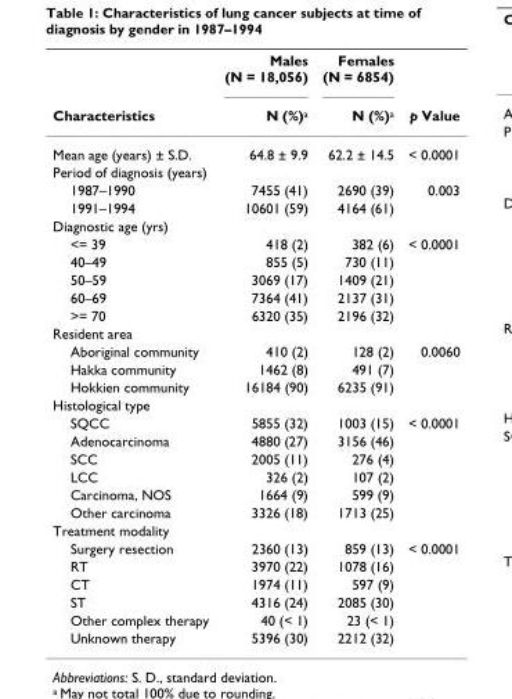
<table><thead><tr><td rowspan="2">Characteristics</td><td rowspan="2">Males (N = 18,056) N (%)<sup>a</sup></td><td rowspan="2">Females (N = 6854) N (%)<sup>a</sup></td><td rowspan="2">p Value</td></tr><tr></tr></thead><tbody><tr><td>Mean age (years) ± S.D.</td><td>64.8 ± 9.9</td><td>62.2 ± 14.5</td><td>&lt; 0.0001</td></tr><tr><td colspan="4">Period of diagnosis (years)</td></tr><tr><td>1987–1990</td><td>7455 (41)</td><td>2690 (39)</td><td>0.003</td></tr><tr><td>1991–1994</td><td>10601 (59)</td><td>4164 (61)</td><td></td></tr><tr><td colspan="4">Diagnostic age (yrs)</td></tr><tr><td>&lt;= 39</td><td>418 (2)</td><td>382 (6)</td><td>&lt; 0.0001</td></tr><tr><td>40–49</td><td>855 (5)</td><td>730 (11)</td><td></td></tr><tr><td>50–59</td><td>3069 (17)</td><td>1409 (21)</td><td></td></tr><tr><td>60–69</td><td>7364 (41)</td><td>2137 (31)</td><td></td></tr><tr><td>&gt;= 70</td><td>6320 (35)</td><td>2196 (32)</td><td></td></tr><tr><td colspan="4">Resident area</td></tr><tr><td>Aboriginal community</td><td>410 (2)</td><td>128 (2)</td><td>0.0060</td></tr><tr><td>Hakka community</td><td>1462 (8)</td><td>491 (7)</td><td></td></tr><tr><td>Hokkien community</td><td>16184 (90)</td><td>6235 (91)</td><td></td></tr><tr><td colspan="4">Histological type</td></tr><tr><td>SQCC</td><td>5855 (32)</td><td>1003 (15)</td><td>&lt; 0.0001</td></tr><tr><td>Adenocarcinoma</td><td>4880 (27)</td><td>3156 (46)</td><td></td></tr><tr><td>SCC</td><td>2005 (11)</td><td>276 (4)</td><td></td></tr><tr><td>LCC</td><td>326 (2)</td><td>107 (2)</td><td></td></tr><tr><td>Carcinoma, NOS</td><td>1664 (9)</td><td>599 (9)</td><td></td></tr><tr><td>Other carcinoma</td><td>3326 (18)</td><td>1713 (25)</td><td></td></tr><tr><td colspan="4">Treatment modality</td></tr><tr><td>Surgery resection</td><td>2360 (13)</td><td>859 (13)</td><td>&lt; 0.0001</td></tr><tr><td>RT</td><td>3970 (22)</td><td>1078 (16)</td><td></td></tr><tr><td>CT</td><td>1974 (11)</td><td>597 (9)</td><td></td></tr><tr><td>ST</td><td>4316 (24)</td><td>2085 (30)</td><td></td></tr><tr><td>Other complex therapy</td><td>40 (&lt; 1)</td><td>23 (&lt; 1)</td><td></td></tr><tr><td>Unknown therapy</td><td>5396 (30)</td><td>2212 (32)</td><td></td></tr></tbody></table>